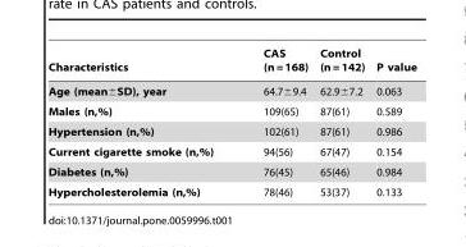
<table><thead><tr><td>Characteristics</td><td>CAS (n = 168)</td><td>Control (n = 142)</td><td>P value</td></tr></thead><tbody><tr><td>Age (mean±SD), year</td><td>64.7±9.4</td><td>62.9±7.2</td><td>0.063</td></tr><tr><td>Males (n,%)</td><td>109(65)</td><td>87(61)</td><td>0.589</td></tr><tr><td>Hypertension (n,%)</td><td>102(61)</td><td>87(61)</td><td>0.986</td></tr><tr><td>Current cigarette smoke (n,%)</td><td>94(56)</td><td>67(47)</td><td>0.154</td></tr><tr><td>Diabetes (n,%)</td><td>76(45)</td><td>65(46)</td><td>0.984</td></tr><tr><td>Hypercholesterolemia (n,%)</td><td>78(46)</td><td>53(37)</td><td>0.133</td></tr></tbody></table>